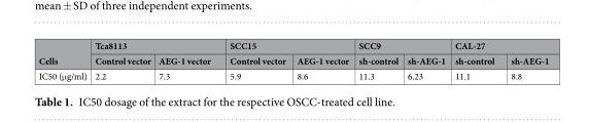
<table><thead><tr><td rowspan="2">Cells</td><td colspan="2">Tca8113</td><td colspan="2">SCC15</td><td colspan="2">SCC9</td><td colspan="2">CAL-27</td></tr><tr><td>Control vector</td><td>AEG-1 vector</td><td>Control vector</td><td>AEG-1 vector</td><td>sh-control</td><td>sh-AEG-1</td><td>sh-control</td><td>sh-AEG-1</td></tr></thead><tbody><tr><td>IC50 (μg/ml)</td><td>2.2</td><td>7.3</td><td>5.9</td><td>8.6</td><td>11.3</td><td>6.23</td><td>11.1</td><td>8.8</td></tr></tbody></table>